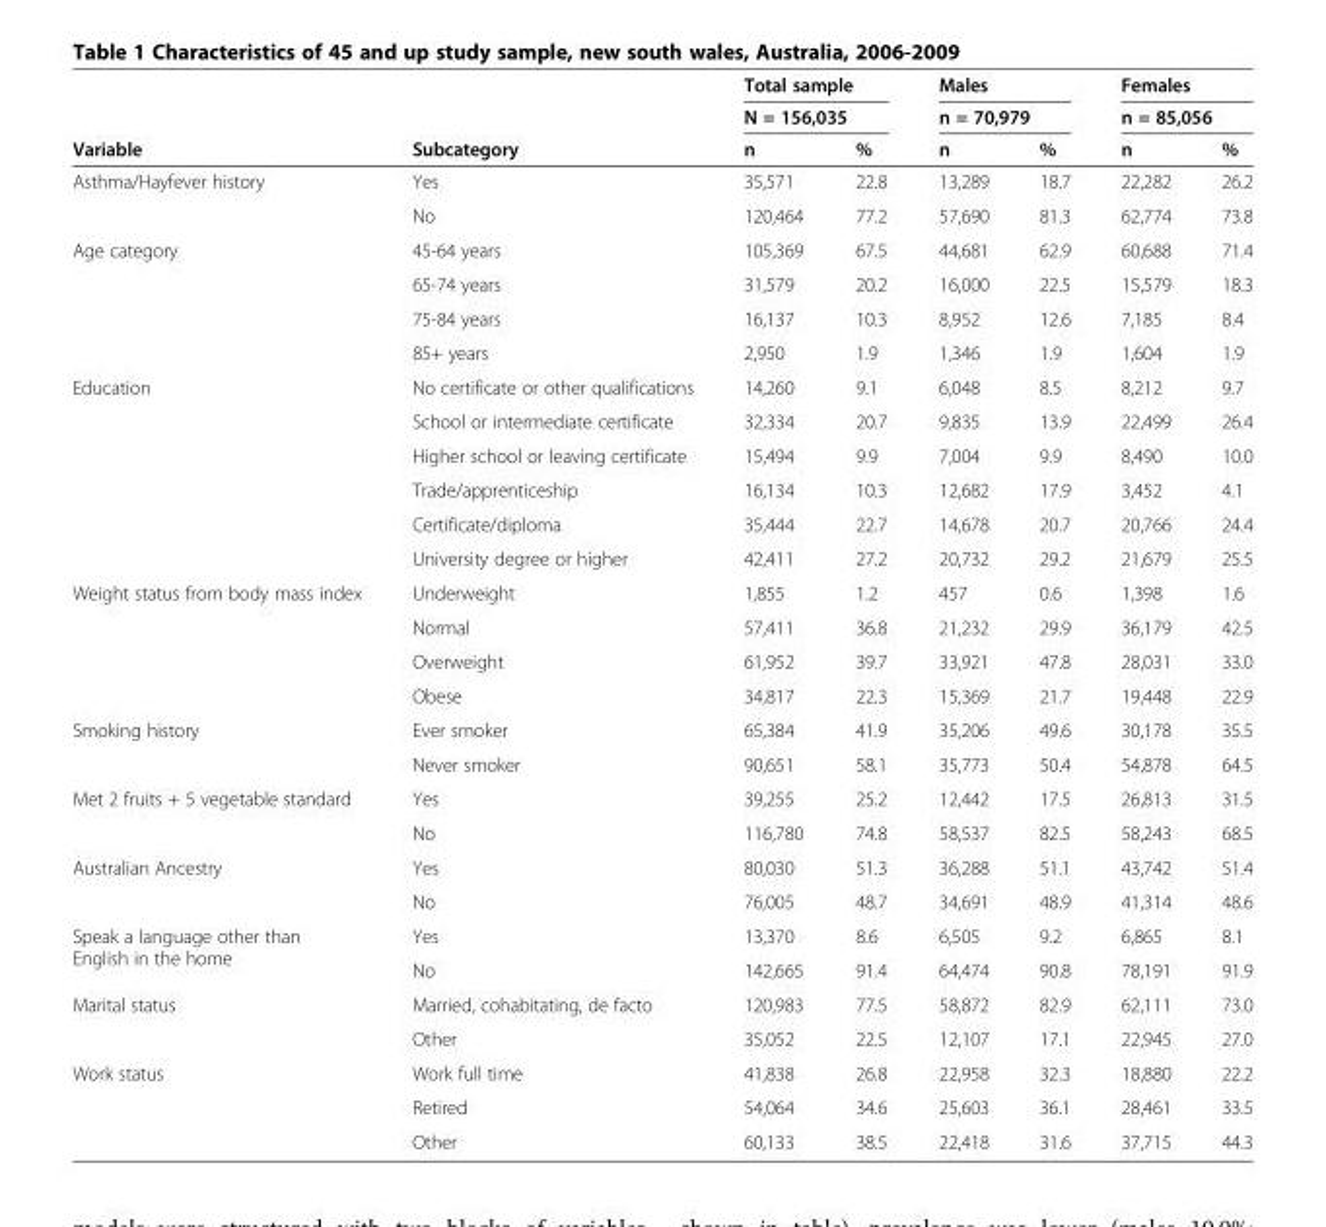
<table><thead><tr><td rowspan="3">Variable</td><td rowspan="3">Subcategory</td><td rowspan="2" colspan="2">Total sample N = 156,035</td><td rowspan="2" colspan="2">Males n = 70,979</td><td rowspan="2" colspan="2">Females n = 85,056</td></tr><tr></tr><tr><td>n</td><td>%</td><td>n</td><td>%</td><td>n</td><td>%</td></tr></thead><tbody><tr><td rowspan="2">Asthma/Hayfever history</td><td>Yes</td><td>35,571</td><td>22.8</td><td>13,289</td><td>18.7</td><td>22,282</td><td>26.2</td></tr><tr><td>No</td><td>120,464</td><td>77.2</td><td>57,690</td><td>81.3</td><td>62,774</td><td>73.8</td></tr><tr><td rowspan="4">Age category</td><td>45-64 years</td><td>105,369</td><td>67.5</td><td>44,681</td><td>62.9</td><td>60,688</td><td>71.4</td></tr><tr><td>65-74 years</td><td>31,579</td><td>20.2</td><td>16,000</td><td>22.5</td><td>15,579</td><td>18.3</td></tr><tr><td>75-84 years</td><td>16,137</td><td>10.3</td><td>8,952</td><td>12.6</td><td>7,185</td><td>8.4</td></tr><tr><td>85+ years</td><td>2,950</td><td>1.9</td><td>1,346</td><td>1.9</td><td>1,604</td><td>1.9</td></tr><tr><td rowspan="6">Education</td><td>No certificate or other qualifications</td><td>14,260</td><td>9.1</td><td>6,048</td><td>8.5</td><td>8,212</td><td>9.7</td></tr><tr><td>School or intermediate certificate</td><td>32,334</td><td>20.7</td><td>9,835</td><td>13.9</td><td>22,499</td><td>26.4</td></tr><tr><td>Higher school or leaving certificate</td><td>15,494</td><td>9.9</td><td>7,004</td><td>9.9</td><td>8,490</td><td>10.0</td></tr><tr><td>Trade/apprenticeship</td><td>16,134</td><td>10.3</td><td>12,682</td><td>17.9</td><td>3,452</td><td>4.1</td></tr><tr><td>Certificate/diploma</td><td>35,444</td><td>22.7</td><td>14,678</td><td>20.7</td><td>20,766</td><td>24.4</td></tr><tr><td>University degree or higher</td><td>42,411</td><td>27.2</td><td>20,732</td><td>29.2</td><td>21,679</td><td>25.5</td></tr><tr><td rowspan="4">Weight status from body mass index</td><td>Underweight</td><td>1,855</td><td>1.2</td><td>457</td><td>0.6</td><td>1,398</td><td>1.6</td></tr><tr><td>Normal</td><td>57,411</td><td>36.8</td><td>21,232</td><td>29.9</td><td>36,179</td><td>42.5</td></tr><tr><td>Overweight</td><td>61,952</td><td>39.7</td><td>33,921</td><td>47.8</td><td>28,031</td><td>33.0</td></tr><tr><td>Obese</td><td>34,817</td><td>22.3</td><td>15,369</td><td>21.7</td><td>19,448</td><td>22.9</td></tr><tr><td rowspan="2">Smoking history</td><td>Ever smoker</td><td>65,384</td><td>41.9</td><td>35,206</td><td>49.6</td><td>30,178</td><td>35.5</td></tr><tr><td>Never smoker</td><td>90,651</td><td>58.1</td><td>35,773</td><td>50.4</td><td>54,878</td><td>64.5</td></tr><tr><td rowspan="2">Met 2 fruits + 5 vegetable standard</td><td>Yes</td><td>39,255</td><td>25.2</td><td>12,442</td><td>17.5</td><td>26,813</td><td>31.5</td></tr><tr><td>No</td><td>116,780</td><td>74.8</td><td>58,537</td><td>82.5</td><td>58,243</td><td>68.5</td></tr><tr><td rowspan="2">Australian Ancestry</td><td>Yes</td><td>80,030</td><td>51.3</td><td>36,288</td><td>51.1</td><td>43,742</td><td>51.4</td></tr><tr><td>No</td><td>76,005</td><td>48.7</td><td>34,691</td><td>48.9</td><td>41,314</td><td>48.6</td></tr><tr><td rowspan="2">Speak a language other than English in the home</td><td>Yes</td><td>13,370</td><td>8.6</td><td>6,505</td><td>9.2</td><td>6,865</td><td>8.1</td></tr><tr><td>No</td><td>142,665</td><td>91.4</td><td>64,474</td><td>90.8</td><td>78,191</td><td>91.9</td></tr><tr><td rowspan="2">Marital status</td><td>Married, cohabitating, de facto</td><td>120,983</td><td>77.5</td><td>58,872</td><td>82.9</td><td>62,111</td><td>73.0</td></tr><tr><td>Other</td><td>35,052</td><td>22.5</td><td>12,107</td><td>17.1</td><td>22,945</td><td>27.0</td></tr><tr><td rowspan="3">Work status</td><td>Work full time</td><td>41,838</td><td>26.8</td><td>22,958</td><td>32.3</td><td>18,880</td><td>22.2</td></tr><tr><td>Retired</td><td>54,064</td><td>34.6</td><td>25,603</td><td>36.1</td><td>28,461</td><td>33.5</td></tr><tr><td>Other</td><td>60,133</td><td>38.5</td><td>22,418</td><td>31.6</td><td>37,715</td><td>44.3</td></tr></tbody></table>